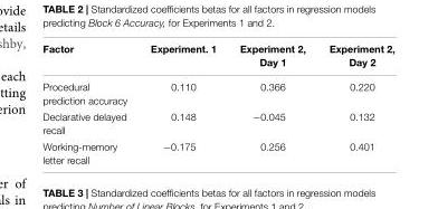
<table><thead><tr><td>Factor</td><td>Experiment. 1</td><td>Experiment 2, Day 1</td><td>Experiment 2, Day 2</td></tr></thead><tbody><tr><td>Procedural prediction accuracy</td><td>0.110</td><td>0.366</td><td>0.220</td></tr><tr><td>Declarative delayed recall</td><td>0.148</td><td>−0.045</td><td>0.132</td></tr><tr><td>Working-memory letter recall</td><td>−0.175</td><td>0.256</td><td>0.401</td></tr></tbody></table>